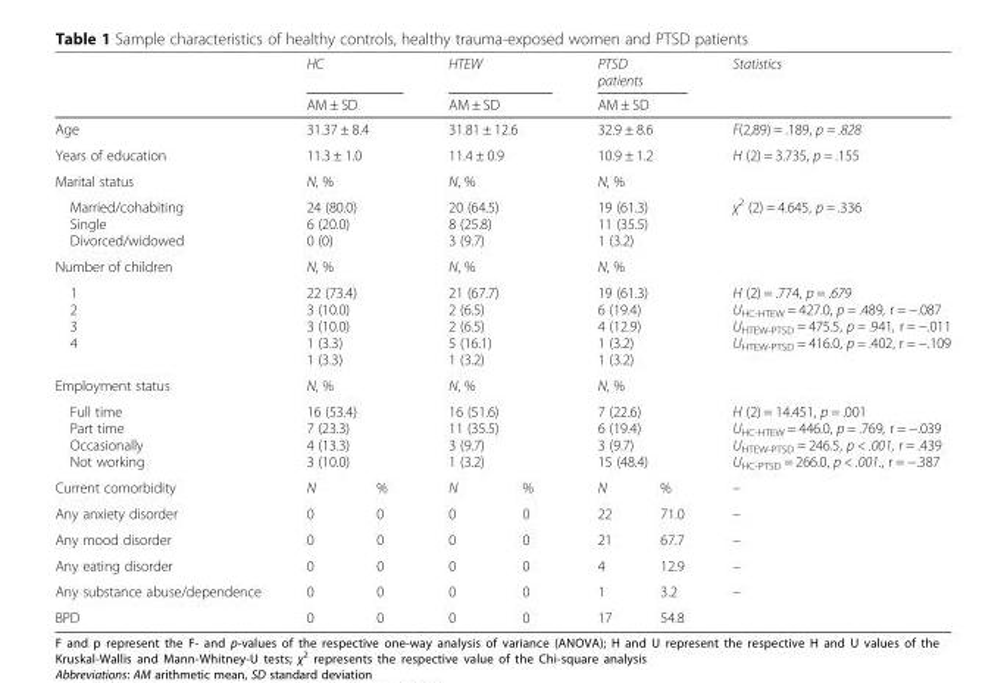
<table><thead><tr><td rowspan="2"></td><td rowspan="2" colspan="2">HC AM ± SD</td><td rowspan="2" colspan="2">HTEW AM ± SD</td><td rowspan="2" colspan="2">PTSD patients AM ± SD</td><td rowspan="2">Statistics</td></tr><tr></tr></thead><tbody><tr><td>Age</td><td colspan="2">31.37 ± 8.4</td><td colspan="2">31.81 ± 12.6</td><td colspan="2">32.9 ± 8.6</td><td>F(2,89) = .189, p = .828</td></tr><tr><td>Years of education</td><td colspan="2">11.3 ± 1.0</td><td colspan="2">11.4 ± 0.9</td><td colspan="2">10.9 ± 1.2</td><td>H (2) = 3.735, p = .155</td></tr><tr><td>Marital status</td><td colspan="2">N, %</td><td colspan="2">N, %</td><td colspan="2">N, %</td><td></td></tr><tr><td>Married/cohabiting Single Divorced/widowed</td><td colspan="2">24 (80.0) 6 (20.0) 0 (0)</td><td colspan="2">20 (64.5) 8 (25.8) 3 (9.7)</td><td colspan="2">19 (61.3) 11 (35.5) 1 (3.2)</td><td>χ<sup>2</sup> (2) = 4.645, p = .336</td></tr><tr><td>Number of children</td><td colspan="2">N, %</td><td colspan="2">N, %</td><td colspan="2">N, %</td><td></td></tr><tr><td>1 2 3 4</td><td colspan="2">22 (73.4) 3 (10.0) 3 (10.0) 1 (3.3) 1 (3.3)</td><td colspan="2">21 (67.7) 2 (6.5) 2 (6.5) 5 (16.1) 1 (3.2)</td><td colspan="2">19 (61.3) 6 (19.4) 4 (12.9) 1 (3.2) 1 (3.2)</td><td>H (2) = .774, p = .679 U<sub>HC-HTEW</sub> = 427.0, p = .489, r = −.087 U<sub>HTEW-PTSD</sub> = 475.5, p = .941, r = −.011 U<sub>HTEW-PTSD</sub> = 416.0, p = .402, r = −.109</td></tr><tr><td>Employment status</td><td colspan="2">N, %</td><td colspan="2">N, %</td><td colspan="2">N, %</td><td></td></tr><tr><td>Full time Part time Occasionally Not working</td><td colspan="2">16 (53.4) 7 (23.3) 4 (13.3) 3 (10.0)</td><td colspan="2">16 (51.6) 11 (35.5) 3 (9.7) 1 (3.2)</td><td colspan="2">7 (22.6) 6 (19.4) 3 (9.7) 15 (48.4)</td><td>H (2) = 14.451, p = .001 U<sub>HC-HTEW</sub> = 446.0, p = .769, r = −.039 U<sub>HTEW-PTSD</sub> = 246.5, p &lt; .001, r = .439 U<sub>HC-PTSD</sub> = 266.0, p &lt; .001., r = −.387</td></tr><tr><td>Current comorbidity</td><td>N</td><td>%</td><td>N</td><td>%</td><td>N</td><td>%</td><td>–</td></tr><tr><td>Any anxiety disorder</td><td>0</td><td>0</td><td>0</td><td>0</td><td>22</td><td>71.0</td><td>–</td></tr><tr><td>Any mood disorder</td><td>0</td><td>0</td><td>0</td><td>0</td><td>21</td><td>67.7</td><td>–</td></tr><tr><td>Any eating disorder</td><td>0</td><td>0</td><td>0</td><td>0</td><td>4</td><td>12.9</td><td>–</td></tr><tr><td>Any substance abuse/dependence</td><td>0</td><td>0</td><td>0</td><td>0</td><td>1</td><td>3.2</td><td>–</td></tr><tr><td>BPD</td><td>0</td><td>0</td><td>0</td><td>0</td><td>17</td><td>54.8</td><td></td></tr></tbody></table>